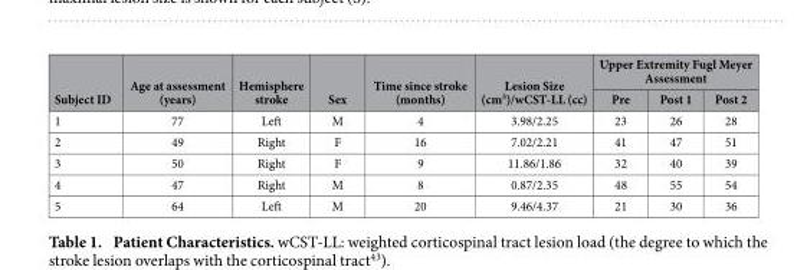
<table><thead><tr><td rowspan="2">Subject ID</td><td rowspan="2">Age at assessment (years)</td><td rowspan="2">Hemisphere stroke</td><td rowspan="2">Sex</td><td rowspan="2">Time since stroke (months)</td><td rowspan="2">Lesion Size (cm<sup>3</sup>)/wCST-LL (cc)</td><td colspan="3">Upper Extremity Fugl Meyer Assessment</td></tr><tr><td>Pre</td><td>Post 1</td><td>Post 2</td></tr></thead><tbody><tr><td>1</td><td>77</td><td>Left</td><td>M</td><td>4</td><td>3.98/2.25</td><td>23</td><td>26</td><td>28</td></tr><tr><td>2</td><td>49</td><td>Right</td><td>F</td><td>16</td><td>7.02/2.21</td><td>41</td><td>47</td><td>51</td></tr><tr><td>3</td><td>50</td><td>Right</td><td>F</td><td>9</td><td>11.86/1.86</td><td>32</td><td>40</td><td>39</td></tr><tr><td>4</td><td>47</td><td>Right</td><td>M</td><td>8</td><td>0.87/2.35</td><td>48</td><td>55</td><td>54</td></tr><tr><td>5</td><td>64</td><td>Left</td><td>M</td><td>20</td><td>9.46/4.37</td><td>21</td><td>30</td><td>36</td></tr></tbody></table>